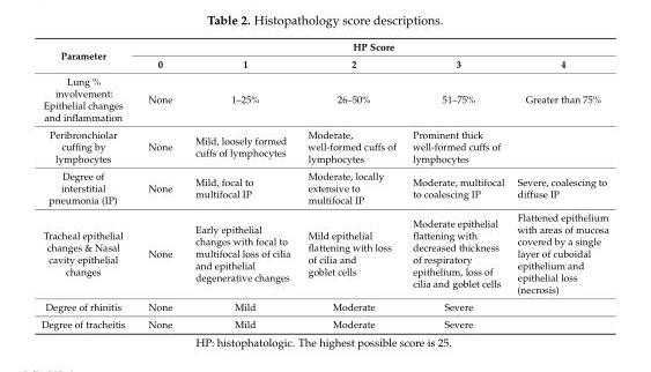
<table><thead><tr><td rowspan="2">Parameter</td><td colspan="5">HP Score</td></tr><tr><td>0</td><td>1</td><td>2</td><td>3</td><td>4</td></tr></thead><tbody><tr><td>Lung % involvement: Epithelial changes and inflammation</td><td>None</td><td>1–25%</td><td>26–50%</td><td>51–75%</td><td>Greater than 75%</td></tr><tr><td>Peribronchiolar cuffing by lymphocytes</td><td>None</td><td>Mild, loosely formed cuffs of lymphocytes</td><td>Moderate, well-formed cuffs of lymphocytes</td><td>Prominent thick well-formed cuffs of lymphocytes</td><td></td></tr><tr><td>Degree of interstitial pneumonia (IP)</td><td>None</td><td>Mild, focal to multifocal IP</td><td>Moderate, locally extensive to multifocal IP</td><td>Moderate, multifocal to coalescing IP</td><td>Severe, coalescing to diffuse IP</td></tr><tr><td>Tracheal epithelial changes &amp; Nasal cavity epithelial changes</td><td>None</td><td>Early epithelial changes with focal to multifocal loss of cilia and epithelial degenerative changes</td><td>Mild epithelial flattening with loss of cilia and goblet cells</td><td>Moderate epithelial flattening with decreased thickness of respiratory epithelium, loss of cilia and goblet cells</td><td>Flattened epithelium with areas of mucosa covered by a single layer of cuboidal epithelium and epithelial loss (necrosis)</td></tr><tr><td>Degree of rhinitis</td><td>None</td><td>Mild</td><td>Moderate</td><td>Severe</td><td></td></tr><tr><td>Degree of tracheitis</td><td>None</td><td>Mild</td><td>Moderate</td><td>Severe</td><td></td></tr></tbody></table>